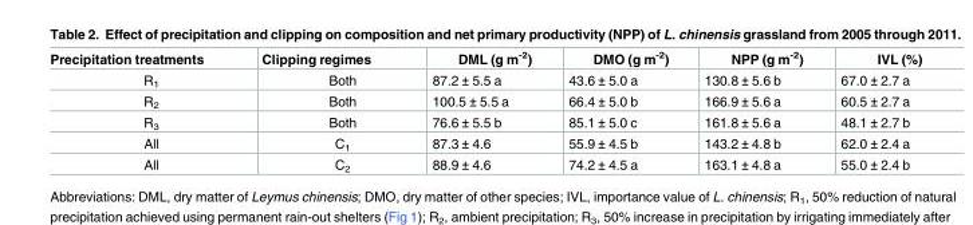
<table><thead><tr><td>Precipitation treatments</td><td>Clipping regimes</td><td>DML (g m<sup>-2</sup>)</td><td>DMO (g m<sup>-2</sup>)</td><td>NPP (g m<sup>-2</sup>)</td><td>IVL (%)</td></tr></thead><tbody><tr><td>R<sub>1</sub></td><td>Both</td><td>87.2 ± 5.5 a</td><td>43.6 ± 5.0 a</td><td>130.8 ± 5.6 b</td><td>67.0 ± 2.7 a</td></tr><tr><td>R<sub>2</sub></td><td>Both</td><td>100.5 ± 5.5 a</td><td>66.4 ± 5.0 b</td><td>166.9 ± 5.6 a</td><td>60.5 ± 2.7 a</td></tr><tr><td>R<sub>3</sub></td><td>Both</td><td>76.6 ± 5.5 b</td><td>85.1 ± 5.0 c</td><td>161.8 ± 5.6 a</td><td>48.1 ± 2.7 b</td></tr><tr><td>All</td><td>C<sub>1</sub></td><td>87.3 ± 4.6</td><td>55.9 ± 4.5 b</td><td>143.2 ± 4.8 b</td><td>62.0 ± 2.4 a</td></tr><tr><td>All</td><td>C<sub>2</sub></td><td>88.9 ± 4.6</td><td>74.2 ± 4.5 a</td><td>163.1 ± 4.8 a</td><td>55.0 ± 2.4 b</td></tr></tbody></table>